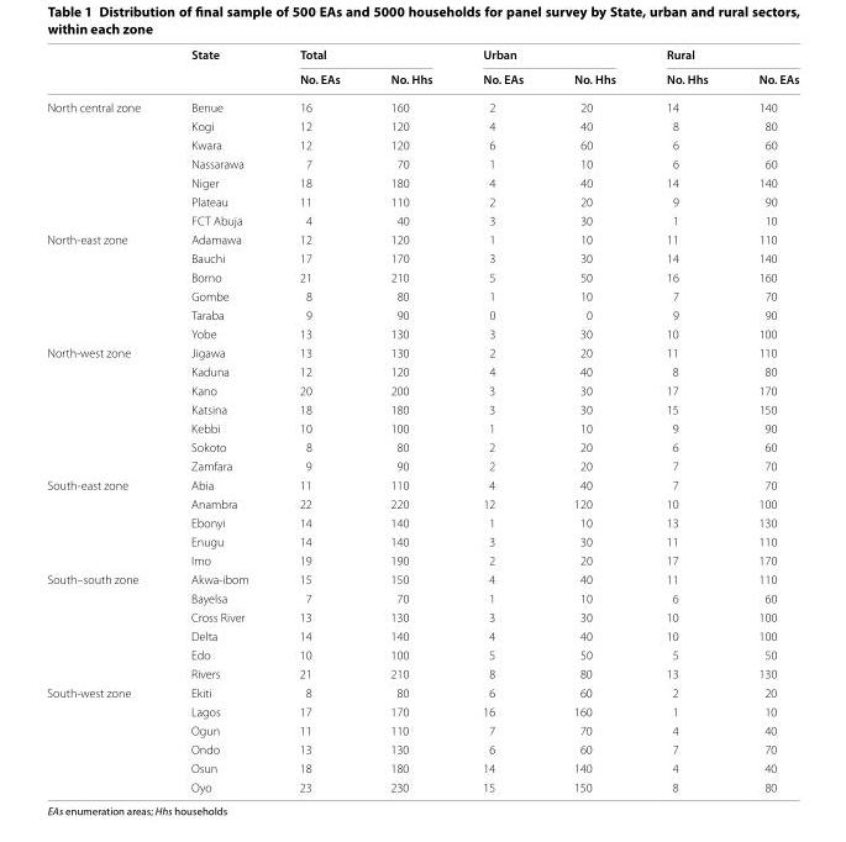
<table><thead><tr><td rowspan="2"></td><td rowspan="2">State</td><td colspan="2">Total</td><td colspan="2">Urban</td><td colspan="2">Rural</td></tr><tr><td>No. EAs</td><td>No. Hhs</td><td>No. EAs</td><td>No. Hhs</td><td>No. Hhs</td><td>No. EAs</td></tr></thead><tbody><tr><td rowspan="7">North central zone</td><td>Benue</td><td>16</td><td>160</td><td>2</td><td>20</td><td>14</td><td>140</td></tr><tr><td>Kogi</td><td>12</td><td>120</td><td>4</td><td>40</td><td>8</td><td>80</td></tr><tr><td>Kwara</td><td>12</td><td>120</td><td>6</td><td>60</td><td>6</td><td>60</td></tr><tr><td>Nassarawa</td><td>7</td><td>70</td><td>1</td><td>10</td><td>6</td><td>60</td></tr><tr><td>Niger</td><td>18</td><td>180</td><td>4</td><td>40</td><td>14</td><td>140</td></tr><tr><td>Plateau</td><td>11</td><td>110</td><td>2</td><td>20</td><td>9</td><td>90</td></tr><tr><td>FCT Abuja</td><td>4</td><td>40</td><td>3</td><td>30</td><td>1</td><td>10</td></tr><tr><td rowspan="6">North-east zone</td><td>Adamawa</td><td>12</td><td>120</td><td>1</td><td>10</td><td>11</td><td>110</td></tr><tr><td>Bauchi</td><td>17</td><td>170</td><td>3</td><td>30</td><td>14</td><td>140</td></tr><tr><td>Borno</td><td>21</td><td>210</td><td>5</td><td>50</td><td>16</td><td>160</td></tr><tr><td>Gombe</td><td>8</td><td>80</td><td>1</td><td>10</td><td>7</td><td>70</td></tr><tr><td>Taraba</td><td>9</td><td>90</td><td>0</td><td>0</td><td>9</td><td>90</td></tr><tr><td>Yobe</td><td>13</td><td>130</td><td>3</td><td>30</td><td>10</td><td>100</td></tr><tr><td rowspan="7">North-west zone</td><td>Jigawa</td><td>13</td><td>130</td><td>2</td><td>20</td><td>11</td><td>110</td></tr><tr><td>Kaduna</td><td>12</td><td>120</td><td>4</td><td>40</td><td>8</td><td>80</td></tr><tr><td>Kano</td><td>20</td><td>200</td><td>3</td><td>30</td><td>17</td><td>170</td></tr><tr><td>Katsina</td><td>18</td><td>180</td><td>3</td><td>30</td><td>15</td><td>150</td></tr><tr><td>Kebbi</td><td>10</td><td>100</td><td>1</td><td>10</td><td>9</td><td>90</td></tr><tr><td>Sokoto</td><td>8</td><td>80</td><td>2</td><td>20</td><td>6</td><td>60</td></tr><tr><td>Zamfara</td><td>9</td><td>90</td><td>2</td><td>20</td><td>7</td><td>70</td></tr><tr><td rowspan="5">South-east zone</td><td>Abia</td><td>11</td><td>110</td><td>4</td><td>40</td><td>7</td><td>70</td></tr><tr><td>Anambra</td><td>22</td><td>220</td><td>12</td><td>120</td><td>10</td><td>100</td></tr><tr><td>Ebonyi</td><td>14</td><td>140</td><td>1</td><td>10</td><td>13</td><td>130</td></tr><tr><td>Enugu</td><td>14</td><td>140</td><td>3</td><td>30</td><td>11</td><td>110</td></tr><tr><td>Imo</td><td>19</td><td>190</td><td>2</td><td>20</td><td>17</td><td>170</td></tr><tr><td rowspan="6">South–south zone</td><td>Akwa-ibom</td><td>15</td><td>150</td><td>4</td><td>40</td><td>11</td><td>110</td></tr><tr><td>Bayelsa</td><td>7</td><td>70</td><td>1</td><td>10</td><td>6</td><td>60</td></tr><tr><td>Cross River</td><td>13</td><td>130</td><td>3</td><td>30</td><td>10</td><td>100</td></tr><tr><td>Delta</td><td>14</td><td>140</td><td>4</td><td>40</td><td>10</td><td>100</td></tr><tr><td>Edo</td><td>10</td><td>100</td><td>5</td><td>50</td><td>5</td><td>50</td></tr><tr><td>Rivers</td><td>21</td><td>210</td><td>8</td><td>80</td><td>13</td><td>130</td></tr><tr><td rowspan="6">South-west zone</td><td>Ekiti</td><td>8</td><td>80</td><td>6</td><td>60</td><td>2</td><td>20</td></tr><tr><td>Lagos</td><td>17</td><td>170</td><td>16</td><td>160</td><td>1</td><td>10</td></tr><tr><td>Ogun</td><td>11</td><td>110</td><td>7</td><td>70</td><td>4</td><td>40</td></tr><tr><td>Ondo</td><td>13</td><td>130</td><td>6</td><td>60</td><td>7</td><td>70</td></tr><tr><td>Osun</td><td>18</td><td>180</td><td>14</td><td>140</td><td>4</td><td>40</td></tr><tr><td>Oyo</td><td>23</td><td>230</td><td>15</td><td>150</td><td>8</td><td>80</td></tr></tbody></table>